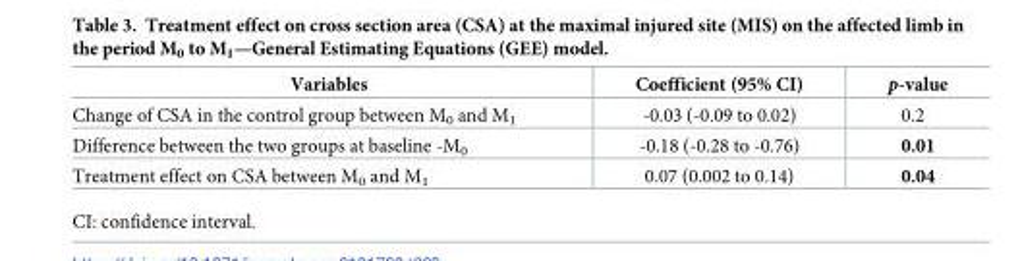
<table><thead><tr><td>Variables</td><td>Coefficient (95% CI)</td><td>p-value</td></tr></thead><tbody><tr><td>Change of CSA in the control group between M<sub>0</sub> and M<sub>1</sub></td><td>-0.03 (-0.09 to 0.02)</td><td>0.2</td></tr><tr><td>Difference between the two groups at baseline -M<sub>0</sub></td><td>-0.18 (-0.28 to -0.76)</td><td>0.01</td></tr><tr><td>Treatment effect on CSA between M<sub>0</sub> and M<sub>1</sub></td><td>0.07 (0.002 to 0.14)</td><td>0.04</td></tr></tbody></table>